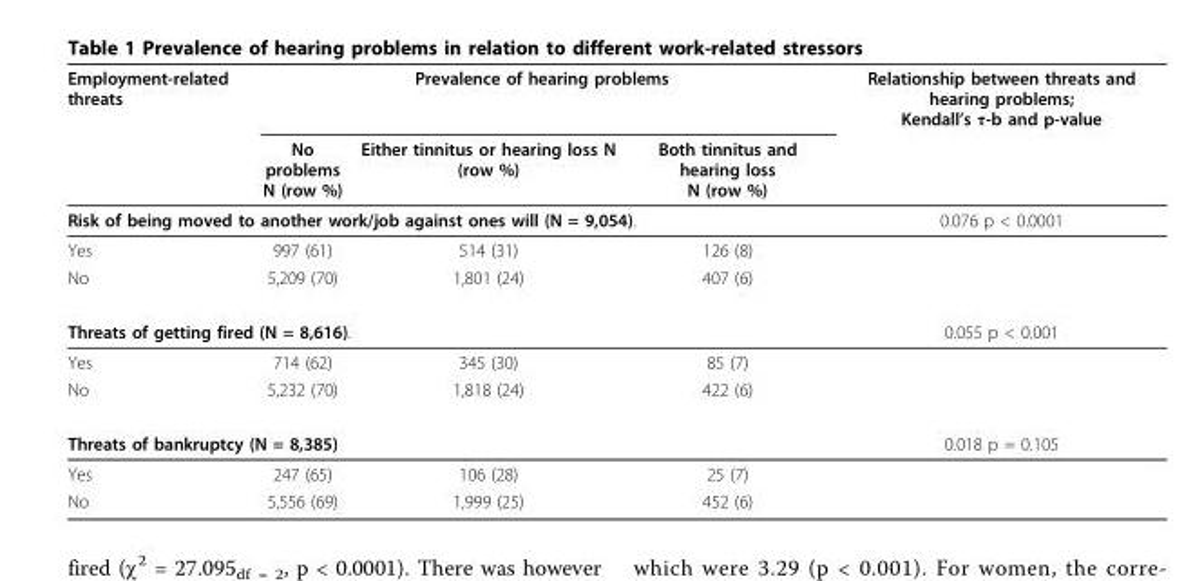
<table><thead><tr><td rowspan="2">Employment-related threats</td><td colspan="3">Prevalence of hearing problems</td><td rowspan="2">Relationship between threats and hearing problems; Kendall’s τ-b and p-value</td></tr><tr><td>No problems N (row %)</td><td>Either tinnitus or hearing loss N (row %)</td><td>Both tinnitus and hearing loss N (row %)</td></tr></thead><tbody><tr><td colspan="4">Risk of being moved to another work/job against ones will (N = 9,054).</td><td>0.076 p &lt; 0.0001</td></tr><tr><td>Yes</td><td>997 (61)</td><td>514 (31)</td><td>126 (8)</td><td></td></tr><tr><td>No</td><td>5,209 (70)</td><td>1,801 (24)</td><td>407 (6)</td><td></td></tr><tr><td colspan="4">Threats of getting fired (N = 8,616).</td><td>0.055 p &lt; 0.001</td></tr><tr><td>Yes</td><td>714 (62)</td><td>345 (30)</td><td>85 (7)</td><td></td></tr><tr><td>No</td><td>5,232 (70)</td><td>1,818 (24)</td><td>422 (6)</td><td></td></tr><tr><td colspan="4">Threats of bankruptcy (N = 8,385)</td><td>0.018 p = 0.105</td></tr><tr><td>Yes</td><td>247 (65)</td><td>106 (28)</td><td>25 (7)</td><td></td></tr><tr><td>No</td><td>5,556 (69)</td><td>1,999 (25)</td><td>452 (6)</td><td></td></tr></tbody></table>